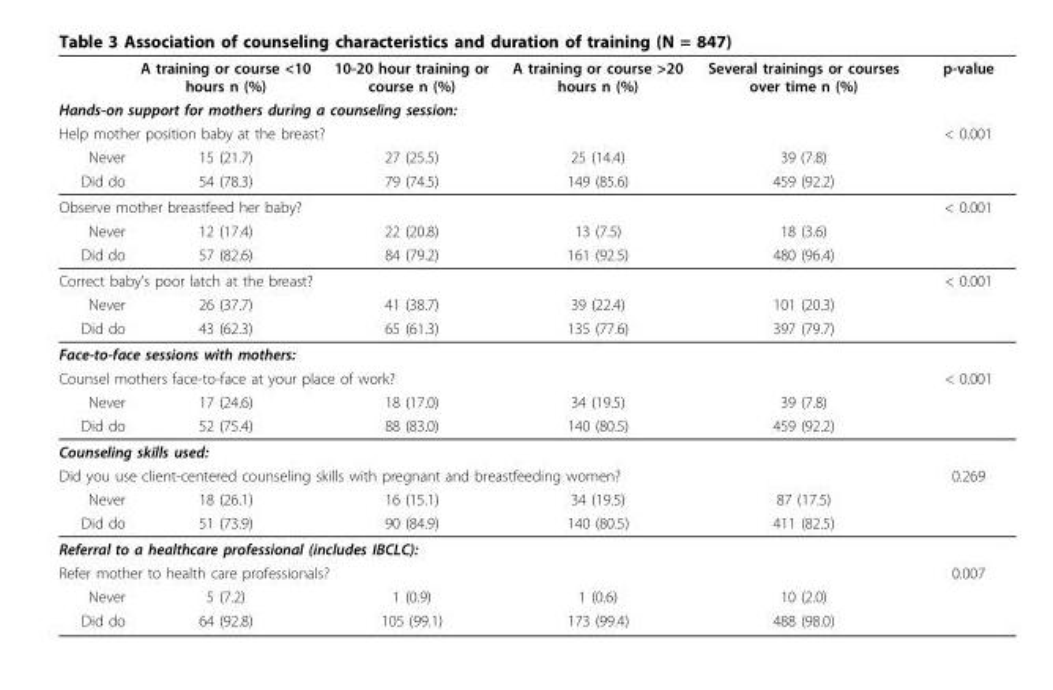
<table><thead><tr><td></td><td>A training or course &lt;10 hours n (%)</td><td>10-20 hour training or course n (%)</td><td>A training or course &gt;20 hours n (%)</td><td>Several trainings or courses over time n (%)</td><td>p-value</td></tr><tr><td colspan="6">Hands-on support for mothers during a counseling session:</td></tr><tr><td colspan="5">Help mother position baby at the breast?</td><td rowspan="3">&lt; 0.001</td></tr><tr><td rowspan="2">Never Did do</td><td rowspan="2">15 (21.7) 54 (78.3)</td><td rowspan="2">27 (25.5) 79 (74.5)</td><td rowspan="2">25 (14.4) 149 (85.6)</td><td rowspan="2">39 (7.8) 459 (92.2)</td></tr><tr></tr></thead><tbody><tr><td colspan="5">Observe mother breastfeed her baby?</td><td>&lt; 0.001</td></tr><tr><td>Never</td><td>12 (17.4)</td><td>22 (20.8)</td><td>13 (7.5)</td><td>18 (3.6)</td><td></td></tr><tr><td>Did do</td><td>57 (82.6)</td><td>84 (79.2)</td><td>161 (92.5)</td><td>480 (96.4)</td><td></td></tr><tr><td colspan="5">Correct baby’s poor latch at the breast?</td><td>&lt; 0.001</td></tr><tr><td>Never</td><td>26 (37.7)</td><td>41 (38.7)</td><td>39 (22.4)</td><td>101 (20.3)</td><td></td></tr><tr><td>Did do</td><td>43 (62.3)</td><td>65 (61.3)</td><td>135 (77.6)</td><td>397 (79.7)</td><td></td></tr><tr><td colspan="6">Face-to-face sessions with mothers:</td></tr><tr><td colspan="5">Counsel mothers face-to-face at your place of work?</td><td>&lt; 0.001</td></tr><tr><td>Never</td><td>17 (24.6)</td><td>18 (17.0)</td><td>34 (19.5)</td><td>39 (7.8)</td><td></td></tr><tr><td>Did do</td><td>52 (75.4)</td><td>88 (83.0)</td><td>140 (80.5)</td><td>459 (92.2)</td><td></td></tr><tr><td colspan="6">Counseling skills used:</td></tr><tr><td colspan="5">Did you use client-centered counseling skills with pregnant and breastfeeding women?</td><td>0.269</td></tr><tr><td>Never</td><td>18 (26.1)</td><td>16 (15.1)</td><td>34 (19.5)</td><td>87 (17.5)</td><td></td></tr><tr><td>Did do</td><td>51 (73.9)</td><td>90 (84.9)</td><td>140 (80.5)</td><td>411 (82.5)</td><td></td></tr><tr><td colspan="6">Referral to a healthcare professional (includes IBCLC):</td></tr><tr><td colspan="5">Refer mother to health care professionals?</td><td>0.007</td></tr><tr><td>Never</td><td>5 (7.2)</td><td>1 (0.9)</td><td>1 (0.6)</td><td>10 (2.0)</td><td></td></tr><tr><td>Did do</td><td>64 (92.8)</td><td>105 (99.1)</td><td>173 (99.4)</td><td>488 (98.0)</td><td></td></tr></tbody></table>